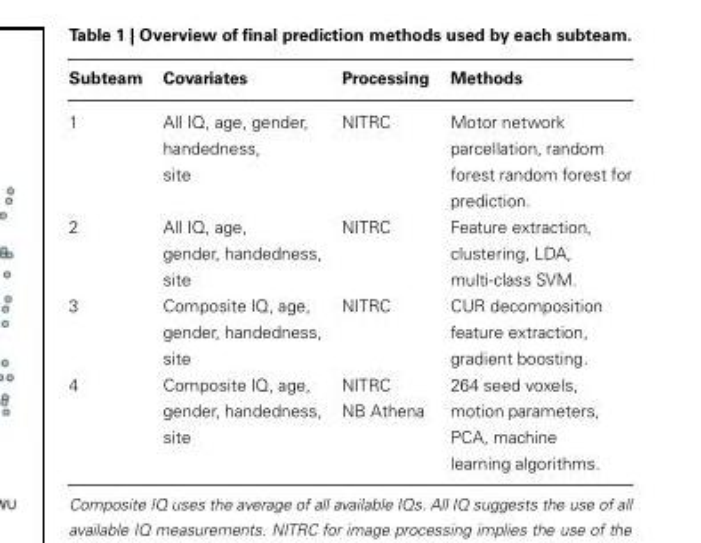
<table><thead><tr><td>Subteam</td><td>Covariates</td><td>Processing</td><td>Methods</td></tr></thead><tbody><tr><td>1</td><td>All IQ, age, gender, handedness, site</td><td>NITRC</td><td>Motor network parcellation, random forest random forest for prediction.</td></tr><tr><td>2</td><td>All IQ, age, gender, handedness, site</td><td>NITRC</td><td>Feature extraction, clustering, LDA, multi-class SVM.</td></tr><tr><td>3</td><td>Composite IQ, age, gender, handedness, site</td><td>NITRC</td><td>CUR decomposition feature extraction, gradient boosting.</td></tr><tr><td>4</td><td>Composite IQ, age, gender, handedness, site</td><td>NITRC NB Athena</td><td>264 seed voxels, motion parameters, PCA, machine learning algorithms.</td></tr></tbody></table>